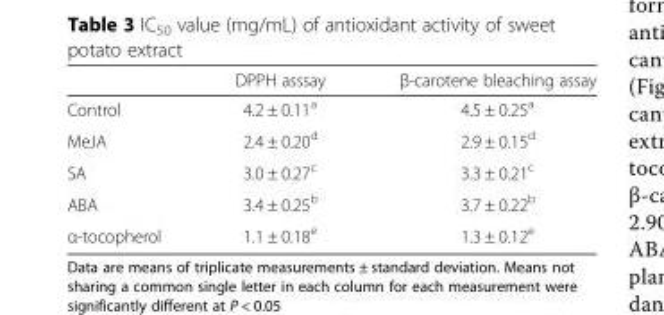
<table><thead><tr><td></td><td>DPPH asssay</td><td>β-carotene bleaching assay</td></tr></thead><tbody><tr><td>Control</td><td>4.2 ± 0.11<sup>a</sup></td><td>4.5 ± 0.25<sup>a</sup></td></tr><tr><td>MeJA</td><td>2.4 ± 0.20<sup>d</sup></td><td>2.9 ± 0.15<sup>d</sup></td></tr><tr><td>SA</td><td>3.0 ± 0.27<sup>c</sup></td><td>3.3 ± 0.21<sup>c</sup></td></tr><tr><td>ABA</td><td>3.4 ± 0.25<sup>b</sup></td><td>3.7 ± 0.22<sup>b</sup></td></tr><tr><td>α-tocopherol</td><td>1.1 ± 0.18<sup>e</sup></td><td>1.3 ± 0.12<sup>e</sup></td></tr></tbody></table>